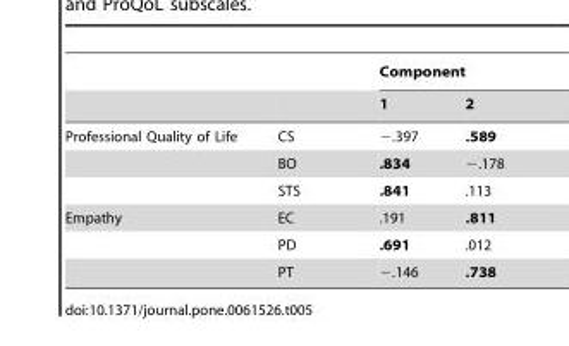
<table><thead><tr><td rowspan="2"></td><td rowspan="2"></td><td colspan="2">Component</td></tr><tr><td>1</td><td>2</td></tr></thead><tbody><tr><td rowspan="3">Professional Quality of Life</td><td>CS</td><td>−.397</td><td>.589</td></tr><tr><td>BO</td><td>.834</td><td>−.178</td></tr><tr><td>STS</td><td>.841</td><td>.113</td></tr><tr><td rowspan="3">Empathy</td><td>EC</td><td>.191</td><td>.811</td></tr><tr><td>PD</td><td>.691</td><td>.012</td></tr><tr><td>PT</td><td>−.146</td><td>.738</td></tr></tbody></table>